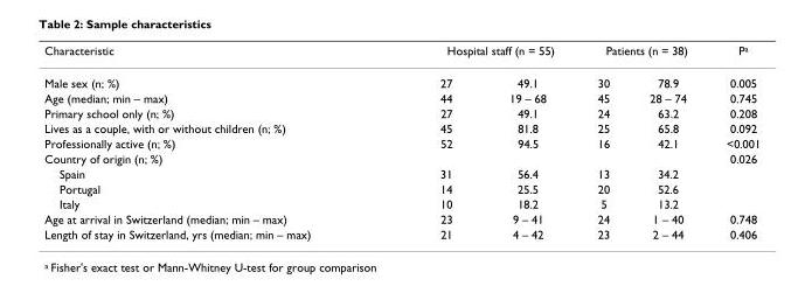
<table><thead><tr><td rowspan="2">Characteristic Male sex (n; %)</td><td colspan="2">Hospital staff (n = 55)</td><td colspan="2">Patients (n = 38)</td><td rowspan="2">P<sup>a</sup> 0.005</td></tr><tr><td>27</td><td>49.1</td><td>30</td><td>78.9</td></tr></thead><tbody><tr><td>Age (median; min – max)</td><td>44</td><td>19 – 68</td><td>45</td><td>28 – 74</td><td>0.745</td></tr><tr><td>Primary school only (n; %)</td><td>27</td><td>49.1</td><td>24</td><td>63.2</td><td>0.208</td></tr><tr><td>Lives as a couple, with or without children (n; %)</td><td>45</td><td>81.8</td><td>25</td><td>65.8</td><td>0.092</td></tr><tr><td>Professionally active (n; %)</td><td>52</td><td>94.5</td><td>16</td><td>42.1</td><td>&lt;0.001</td></tr><tr><td>Country of origin (n; %)</td><td></td><td></td><td></td><td></td><td>0.026</td></tr><tr><td>Spain</td><td>31</td><td>56.4</td><td>13</td><td>34.2</td><td></td></tr><tr><td>Portugal</td><td>14</td><td>25.5</td><td>20</td><td>52.6</td><td></td></tr><tr><td>Italy</td><td>10</td><td>18.2</td><td>5</td><td>13.2</td><td></td></tr><tr><td>Age at arrival in Switzerland (median; min – max)</td><td>23</td><td>9 – 41</td><td>24</td><td>1 – 40</td><td>0.748</td></tr><tr><td>Length of stay in Switzerland, yrs (median; min – max)</td><td>21</td><td>4 – 42</td><td>23</td><td>2 – 44</td><td>0.406</td></tr></tbody></table>